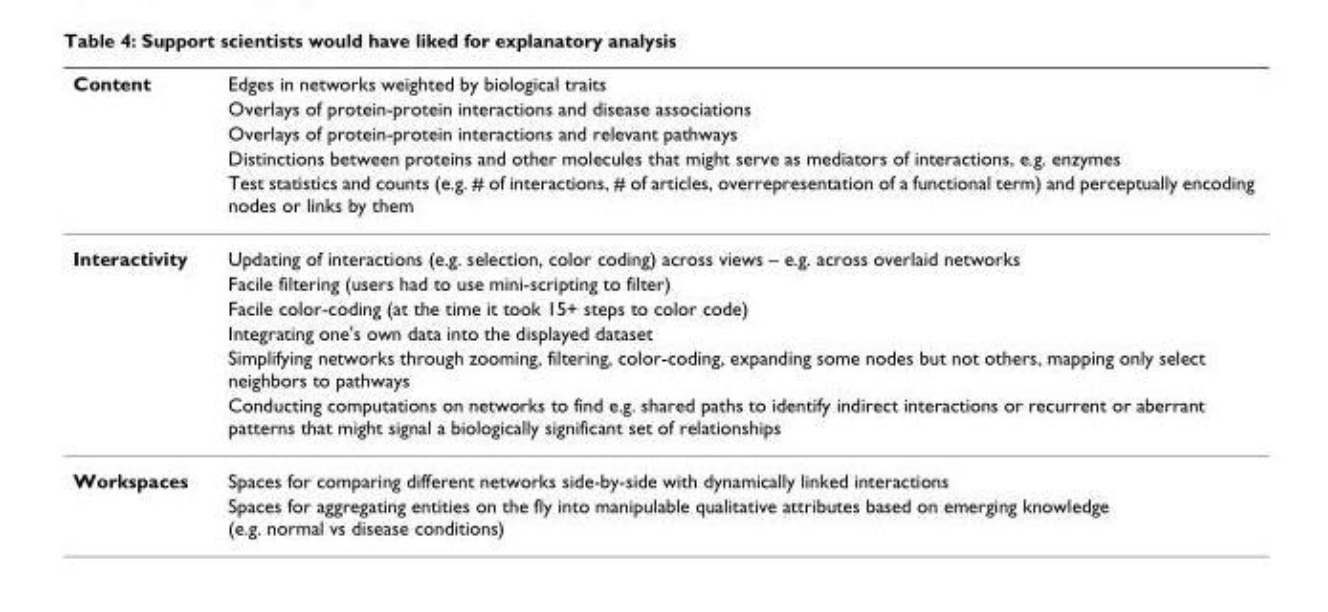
<table><thead><tr><td rowspan="5">Content</td><td rowspan="5">Edges in networks weighted by biological traits Overlays of protein-protein interactions and disease associations Overlays of protein-protein interactions and relevant pathways Distinctions between proteins and other molecules that might serve as mediators of interactions, e.g. enzymes Test statistics and counts (e.g. # of interactions, # of articles, overrepresentation of a functional term) and perceptually encoding nodes or links by them</td></tr><tr></tr><tr></tr><tr></tr><tr></tr></thead><tbody><tr><td rowspan="6">Interactivity</td><td>Updating of interactions (e.g. selection, color coding) across views – e.g. across overlaid networks</td></tr><tr><td>Facile filtering (users had to use mini-scripting to filter)</td></tr><tr><td>Facile color-coding (at the time it took 15+ steps to color code)</td></tr><tr><td>Integrating one&#x27;s own data into the displayed dataset</td></tr><tr><td>Simplifying networks through zooming, filtering, color-coding, expanding some nodes but not others, mapping only select neighbors to pathways</td></tr><tr><td>Conducting computations on networks to find e.g. shared paths to identify indirect interactions or recurrent or aberrant patterns that might signal a biologically significant set of relationships</td></tr><tr><td rowspan="2">Workspaces</td><td>Spaces for comparing different networks side-by-side with dynamically linked interactions</td></tr><tr><td>Spaces for aggregating entities on the fly into manipulable qualitative attributes based on emerging knowledge (e.g. normal vs disease conditions)</td></tr></tbody></table>